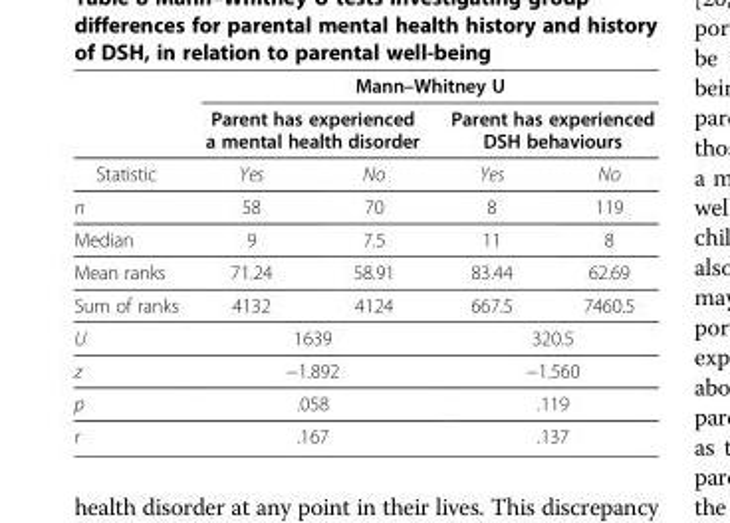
<table><thead><tr><td rowspan="3">Statistic</td><td colspan="4">Mann–Whitney U</td></tr><tr><td colspan="2">Parent has experienced a mental health disorder</td><td colspan="2">Parent has experienced DSH behaviours</td></tr><tr><td>Yes</td><td>No</td><td>Yes</td><td>No</td></tr></thead><tbody><tr><td>n</td><td>58</td><td>70</td><td>8</td><td>119</td></tr><tr><td>Median</td><td>9</td><td>7.5</td><td>11</td><td>8</td></tr><tr><td>Mean ranks</td><td>71.24</td><td>58.91</td><td>83.44</td><td>62.69</td></tr><tr><td>Sum of ranks</td><td>4132</td><td>4124</td><td>667.5</td><td>7460.5</td></tr><tr><td>U</td><td colspan="2">1639</td><td colspan="2">320.5</td></tr><tr><td>z</td><td colspan="2">−1.892</td><td colspan="2">−1.560</td></tr><tr><td>p</td><td colspan="2">.058</td><td colspan="2">.119</td></tr><tr><td>r</td><td colspan="2">.167</td><td colspan="2">.137</td></tr></tbody></table>